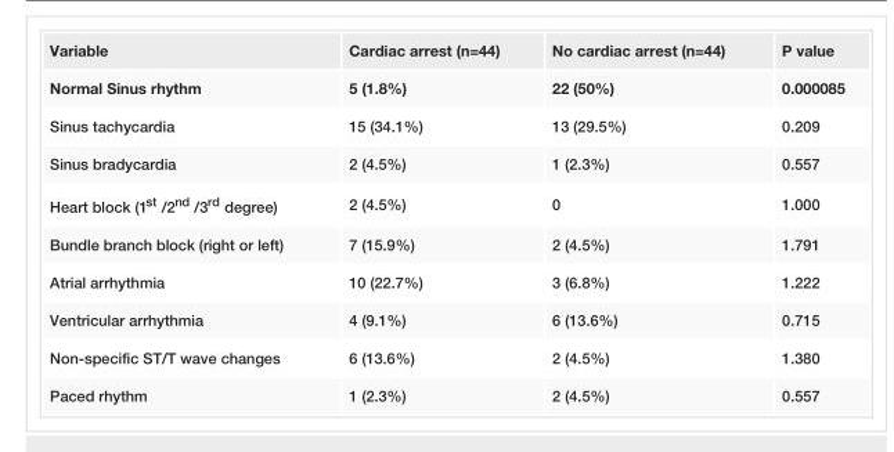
<table><tbody><tr><td>Variable</td><td>Cardiac arrest (n=44)</td><td>No cardiac arrest (n=44)</td><td>P value</td></tr><tr><td>Normal Sinus rhythm</td><td>5 (1.8%)</td><td>22 (50%)</td><td>0.000085</td></tr><tr><td>Sinus tachycardia</td><td>15 (34.1%)</td><td>13 (29.5%)</td><td>0.209</td></tr><tr><td>Sinus bradycardia</td><td>2 (4.5%)</td><td>1 (2.3%)</td><td>0.557</td></tr><tr><td>Heart block (1<sup>st</sup> /2<sup>nd</sup> /3<sup>rd</sup> degree)</td><td>2 (4.5%)</td><td>0</td><td>1.000</td></tr><tr><td>Bundle branch block (right or left)</td><td>7 (15.9%)</td><td>2 (4.5%)</td><td>1.791</td></tr><tr><td>Atrial arrhythmia</td><td>10 (22.7%)</td><td>3 (6.8%)</td><td>1.222</td></tr><tr><td>Ventricular arrhythmia</td><td>4 (9.1%)</td><td>6 (13.6%)</td><td>0.715</td></tr><tr><td>Non-specific ST/T wave changes</td><td>6 (13.6%)</td><td>2 (4.5%)</td><td>1.380</td></tr><tr><td>Paced rhythm</td><td>1 (2.3%)</td><td>2 (4.5%)</td><td>0.557</td></tr></tbody></table>